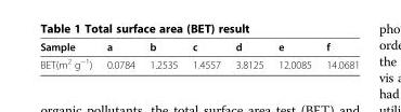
<table><thead><tr><td>Sample</td><td>a</td><td>b</td><td>c</td><td>d</td><td>e</td><td>f</td></tr></thead><tbody><tr><td>BET(m<sup>2</sup> g<sup>−1</sup>)</td><td>0.0784</td><td>1.2535</td><td>1.4557</td><td>3.8125</td><td>12.0085</td><td>14.0681</td></tr></tbody></table>